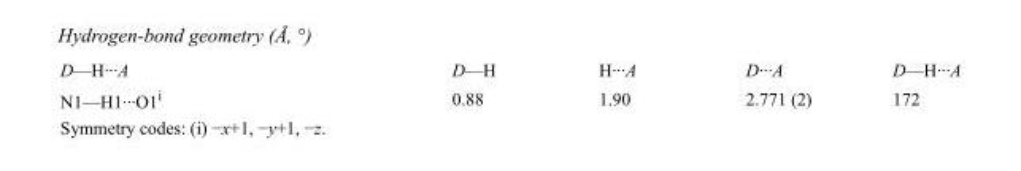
<table><tbody><tr><td>D—H···A</td><td>D—H</td><td>H···A</td><td>D···A</td><td>D—H···A</td></tr><tr><td>N1—H1···O1<sup>i</sup></td><td>0.88</td><td>1.90</td><td>2.771 (2)</td><td>172</td></tr></tbody></table>